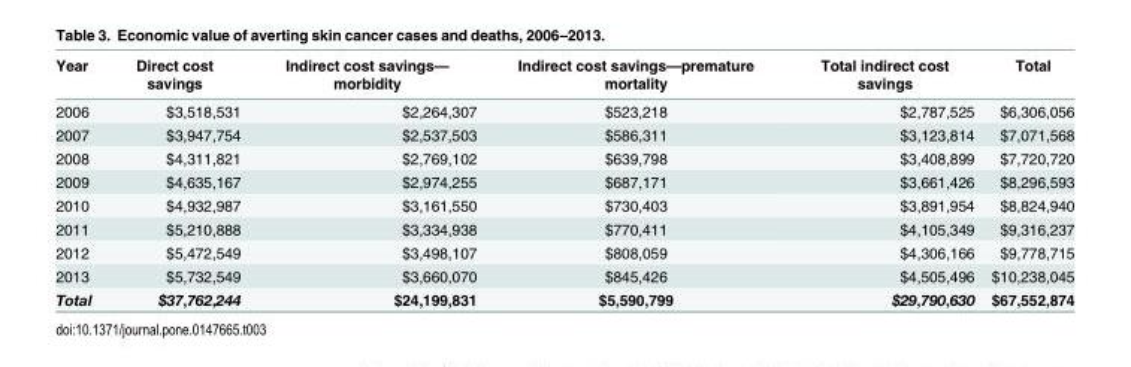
<table><thead><tr><td>Year</td><td>Direct cost savings</td><td>Indirect cost savings— morbidity</td><td>Indirect cost savings—premature mortality</td><td>Total indirect cost savings</td><td>Total</td></tr></thead><tbody><tr><td>2006</td><td>$3,518,531</td><td>$2,264,307</td><td>$523,218</td><td>$2,787,525</td><td>$6,306,056</td></tr><tr><td>2007</td><td>$3,947,754</td><td>$2,537,503</td><td>$586,311</td><td>$3,123,814</td><td>$7,071,568</td></tr><tr><td>2008</td><td>$4,311,821</td><td>$2,769,102</td><td>$639,798</td><td>$3,408,899</td><td>$7,720,720</td></tr><tr><td>2009</td><td>$4,635,167</td><td>$2,974,255</td><td>$687,171</td><td>$3,661,426</td><td>$8,296,593</td></tr><tr><td>2010</td><td>$4,932,987</td><td>$3,161,550</td><td>$730,403</td><td>$3,891,954</td><td>$8,824,940</td></tr><tr><td>2011</td><td>$5,210,888</td><td>$3,334,938</td><td>$770,411</td><td>$4,105,349</td><td>$9,316,237</td></tr><tr><td>2012</td><td>$5,472,549</td><td>$3,498,107</td><td>$808,059</td><td>$4,306,166</td><td>$9,778,715</td></tr><tr><td>2013</td><td>$5,732,549</td><td>$3,660,070</td><td>$845,426</td><td>$4,505,496</td><td>$10,238,045</td></tr><tr><td>Total</td><td>$37,762,244</td><td>$24,199,831</td><td>$5,590,799</td><td>$29,790,630</td><td>$67,552,874</td></tr></tbody></table>